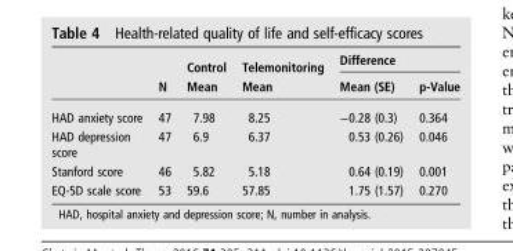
<table><thead><tr><td rowspan="2"></td><td rowspan="2">N</td><td rowspan="2">Control Mean</td><td rowspan="2">Telemonitoring Mean</td><td colspan="2">Difference</td></tr><tr><td>Mean (SE)</td><td>p-Value</td></tr></thead><tbody><tr><td>HAD anxiety score</td><td>47</td><td>7.98</td><td>8.25</td><td>−0.28 (0.3)</td><td>0.364</td></tr><tr><td>HAD depression score</td><td>47</td><td>6.9</td><td>6.37</td><td>0.53 (0.26)</td><td>0.046</td></tr><tr><td>Stanford score</td><td>46</td><td>5.82</td><td>5.18</td><td>0.64 (0.19)</td><td>0.001</td></tr><tr><td>EQ-5D scale score</td><td>53</td><td>59.6</td><td>57.85</td><td>1.75 (1.57)</td><td>0.270</td></tr></tbody></table>